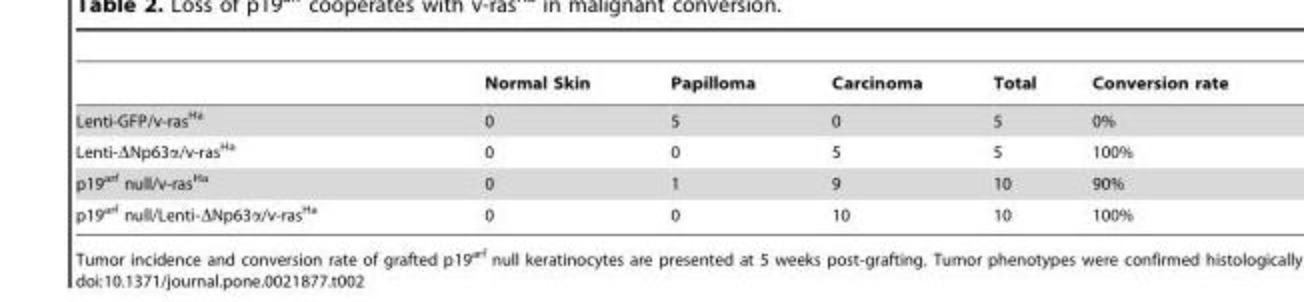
<table><thead><tr><td></td><td>Normal Skin</td><td>Papilloma</td><td>Carcinoma</td><td>Total</td><td>Conversion rate</td></tr></thead><tbody><tr><td>Lenti-GFP/v-ras<sup>Ha</sup></td><td>0</td><td>5</td><td>0</td><td>5</td><td>0%</td></tr><tr><td>Lenti-ΔNp63α/v-ras<sup>Ha</sup></td><td>0</td><td>0</td><td>5</td><td>5</td><td>100%</td></tr><tr><td>p19<sup>arf</sup> null/v-ras<sup>Ha</sup></td><td>0</td><td>1</td><td>9</td><td>10</td><td>90%</td></tr><tr><td>p19<sup>arf</sup> null/Lenti-ΔNp63α/v-ras<sup>Ha</sup></td><td>0</td><td>0</td><td>10</td><td>10</td><td>100%</td></tr></tbody></table>